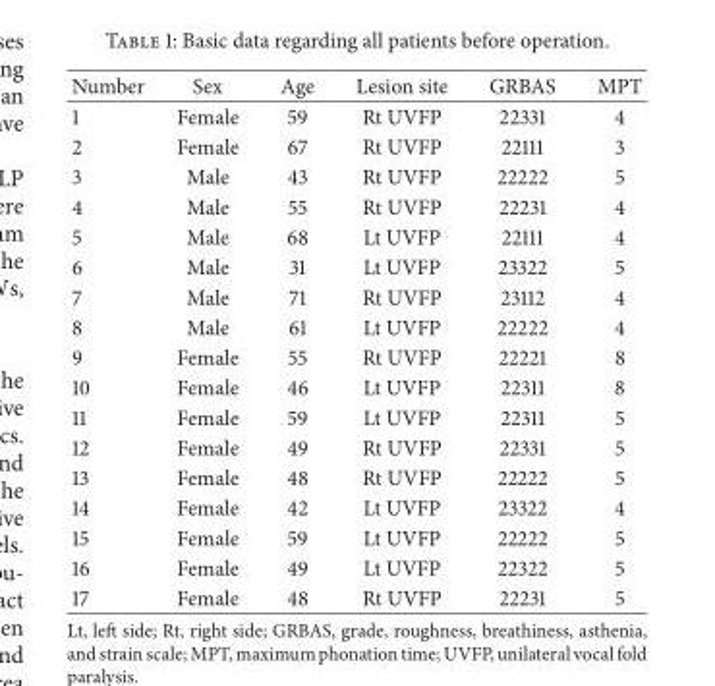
<table><thead><tr><td>Number</td><td>Sex</td><td>Age</td><td>Lesion site</td><td>GRBAS</td><td>MPT</td></tr></thead><tbody><tr><td>1</td><td>Female</td><td>59</td><td>Rt UVFP</td><td>22331</td><td>4</td></tr><tr><td>2</td><td>Female</td><td>67</td><td>Rt UVFP</td><td>22111</td><td>3</td></tr><tr><td>3</td><td>Male</td><td>43</td><td>Rt UVFP</td><td>22222</td><td>5</td></tr><tr><td>4</td><td>Male</td><td>55</td><td>Rt UVFP</td><td>22231</td><td>4</td></tr><tr><td>5</td><td>Male</td><td>68</td><td>Lt UVFP</td><td>22111</td><td>4</td></tr><tr><td>6</td><td>Male</td><td>31</td><td>Lt UVFP</td><td>23322</td><td>5</td></tr><tr><td>7</td><td>Male</td><td>71</td><td>Rt UVFP</td><td>23112</td><td>4</td></tr><tr><td>8</td><td>Male</td><td>61</td><td>Lt UVFP</td><td>22222</td><td>4</td></tr><tr><td>9</td><td>Female</td><td>55</td><td>Rt UVFP</td><td>22221</td><td>8</td></tr><tr><td>10</td><td>Female</td><td>46</td><td>Lt UVFP</td><td>22311</td><td>8</td></tr><tr><td>11</td><td>Female</td><td>59</td><td>Lt UVFP</td><td>22311</td><td>5</td></tr><tr><td>12</td><td>Female</td><td>49</td><td>Rt UVFP</td><td>22331</td><td>5</td></tr><tr><td>13</td><td>Female</td><td>48</td><td>Rt UVFP</td><td>22222</td><td>5</td></tr><tr><td>14</td><td>Female</td><td>42</td><td>Lt UVFP</td><td>23322</td><td>4</td></tr><tr><td>15</td><td>Female</td><td>59</td><td>Lt UVFP</td><td>22222</td><td>5</td></tr><tr><td>16</td><td>Female</td><td>49</td><td>Lt UVFP</td><td>22322</td><td>5</td></tr><tr><td>17</td><td>Female</td><td>48</td><td>Rt UVFP</td><td>22231</td><td>5</td></tr></tbody></table>